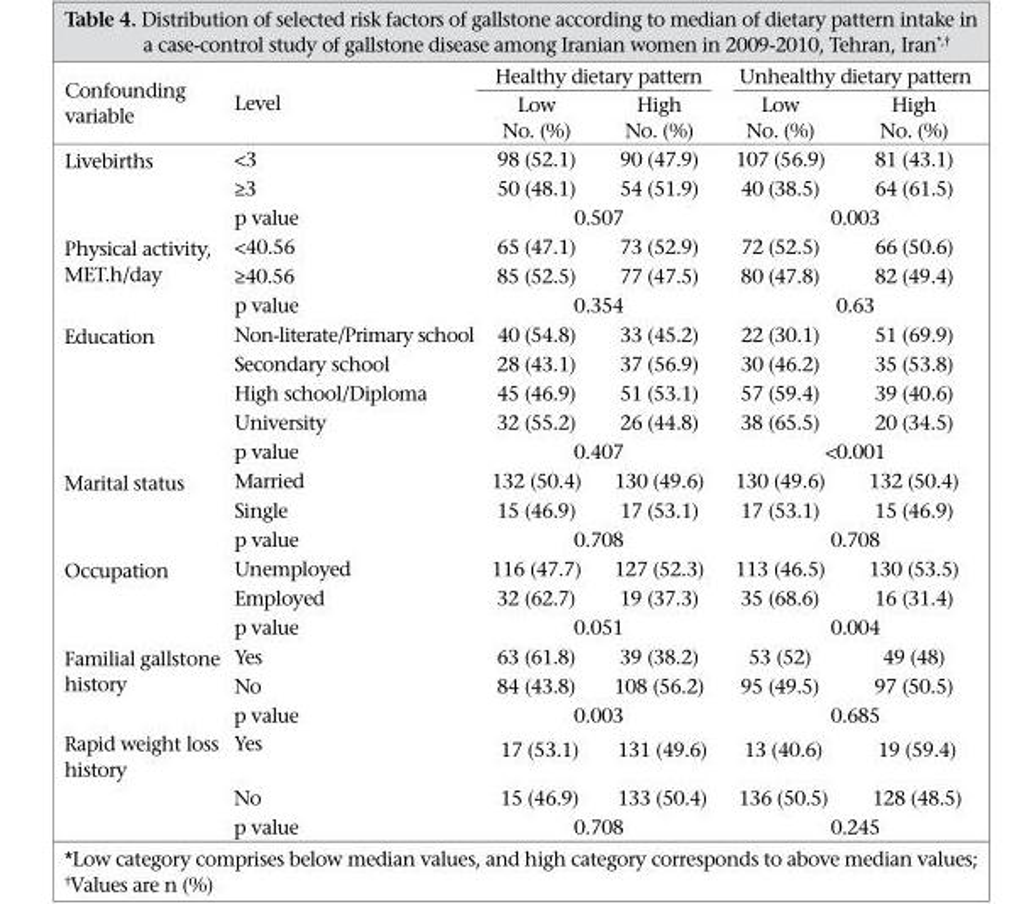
<table><thead><tr><td rowspan="2">Confounding variable</td><td rowspan="2">Level</td><td colspan="2">Healthy dietary pattern</td><td colspan="2">Unhealthy dietary pattern</td></tr><tr><td>Low No. (%)</td><td>High No. (%)</td><td>Low No. (%)</td><td>High No. (%)</td></tr></thead><tbody><tr><td rowspan="3">Livebirths</td><td>&lt;3</td><td>98 (52.1)</td><td>90 (47.9)</td><td>107 (56.9)</td><td>81 (43.1)</td></tr><tr><td>≥3</td><td>50 (48.1)</td><td>54 (51.9)</td><td>40 (38.5)</td><td>64 (61.5)</td></tr><tr><td>p value</td><td colspan="2">0.507</td><td colspan="2">0.003</td></tr><tr><td rowspan="3">Physical activity, MET.h/day</td><td>&lt;40.56</td><td>65 (47.1)</td><td>73 (52.9)</td><td>72 (52.5)</td><td>66 (50.6)</td></tr><tr><td>≥40.56</td><td>85 (52.5)</td><td>77 (47.5)</td><td>80 (47.8)</td><td>82 (49.4)</td></tr><tr><td>p value</td><td colspan="2">0.354</td><td colspan="2">0.63</td></tr><tr><td rowspan="5">Education</td><td>Non-literate/Primary school</td><td>40 (54.8)</td><td>33 (45.2)</td><td>22 (30.1)</td><td>51 (69.9)</td></tr><tr><td>Secondary school</td><td>28 (43.1)</td><td>37 (56.9)</td><td>30 (46.2)</td><td>35 (53.8)</td></tr><tr><td>High school/Diploma</td><td>45 (46.9)</td><td>51 (53.1)</td><td>57 (59.4)</td><td>39 (40.6)</td></tr><tr><td>University</td><td>32 (55.2)</td><td>26 (44.8)</td><td>38 (65.5)</td><td>20 (34.5)</td></tr><tr><td>p value</td><td colspan="2">0.407</td><td colspan="2">&lt;0.001</td></tr><tr><td rowspan="3">Marital status</td><td>Married</td><td>132 (50.4)</td><td>130 (49.6)</td><td>130 (49.6)</td><td>132 (50.4)</td></tr><tr><td>Single</td><td>15 (46.9)</td><td>17 (53.1)</td><td>17 (53.1)</td><td>15 (46.9)</td></tr><tr><td>p value</td><td colspan="2">0.708</td><td colspan="2">0.708</td></tr><tr><td rowspan="3">Occupation</td><td>Unemployed</td><td>116 (47.7)</td><td>127 (52.3)</td><td>113 (46.5)</td><td>130 (53.5)</td></tr><tr><td>Employed</td><td>32 (62.7)</td><td>19 (37.3)</td><td>35 (68.6)</td><td>16 (31.4)</td></tr><tr><td>p value</td><td colspan="2">0.051</td><td colspan="2">0.004</td></tr><tr><td rowspan="3">Familial gallstone history</td><td>Yes</td><td>63 (61.8)</td><td>39 (38.2)</td><td>53 (52)</td><td>49 (48)</td></tr><tr><td>No</td><td>84 (43.8)</td><td>108 (56.2)</td><td>95 (49.5)</td><td>97 (50.5)</td></tr><tr><td>p value</td><td colspan="2">0.003</td><td colspan="2">0.685</td></tr><tr><td rowspan="3">Rapid weight loss history</td><td>Yes</td><td>17 (53.1)</td><td>131 (49.6)</td><td>13 (40.6)</td><td>19 (59.4)</td></tr><tr><td>No</td><td>15 (46.9)</td><td>133 (50.4)</td><td>136 (50.5)</td><td>128 (48.5)</td></tr><tr><td>p value</td><td colspan="2">0.708</td><td colspan="2">0.245</td></tr></tbody></table>